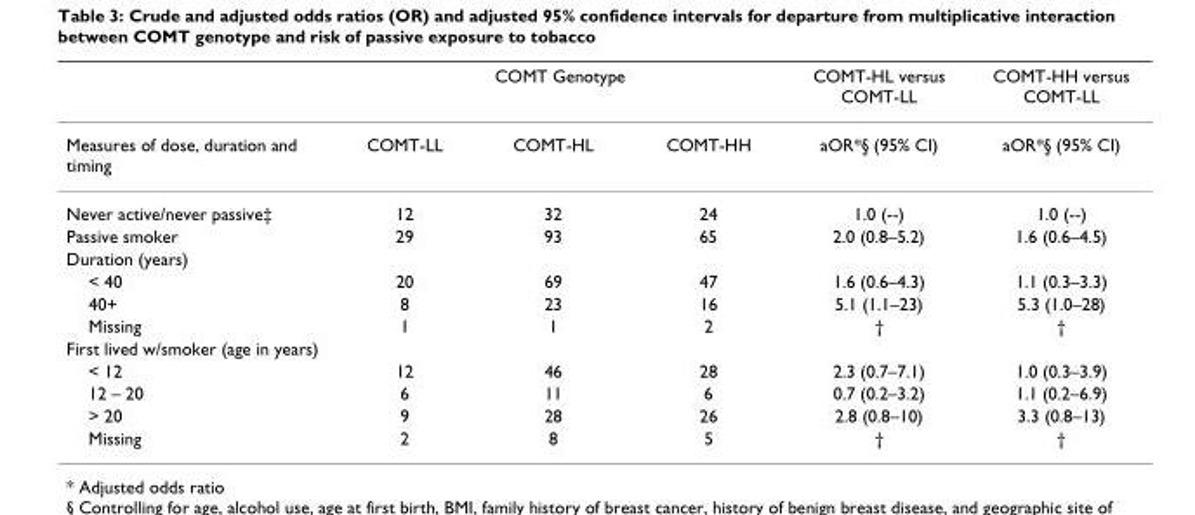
<table><thead><tr><td rowspan="2">Measures of dose, duration and timing</td><td colspan="3">COMT Genotype</td><td rowspan="2">COMT-HL versus COMT-LL aOR*§ (95% CI)</td><td rowspan="2">COMT-HH versus COMT-LL aOR*§ (95% CI)</td></tr><tr><td>COMT-LL</td><td>COMT-HL</td><td>COMT-HH</td></tr></thead><tbody><tr><td>Never active/never passive‡</td><td>12</td><td>32</td><td>24</td><td>1.0 (--)</td><td>1.0 (--)</td></tr><tr><td>Passive smoker</td><td>29</td><td>93</td><td>65</td><td>2.0 (0.8–5.2)</td><td>1.6 (0.6–4.5)</td></tr><tr><td colspan="6">Duration (years)</td></tr><tr><td>&lt; 40</td><td>20</td><td>69</td><td>47</td><td>1.6 (0.6–4.3)</td><td>1.1 (0.3–3.3)</td></tr><tr><td>40+</td><td>8</td><td>23</td><td>16</td><td>5.1 (1.1–23)</td><td>5.3 (1.0–28)</td></tr><tr><td>Missing</td><td>1</td><td>1</td><td>2</td><td>†</td><td>†</td></tr><tr><td colspan="6">First lived w/smoker (age in years)</td></tr><tr><td>&lt; 12</td><td>12</td><td>46</td><td>28</td><td>2.3 (0.7–7.1)</td><td>1.0 (0.3–3.9)</td></tr><tr><td>12 – 20</td><td>6</td><td>11</td><td>6</td><td>0.7 (0.2–3.2)</td><td>1.1 (0.2–6.9)</td></tr><tr><td>&gt; 20</td><td>9</td><td>28</td><td>26</td><td>2.8 (0.8–10)</td><td>3.3 (0.8–13)</td></tr><tr><td>Missing</td><td>2</td><td>8</td><td>5</td><td>†</td><td>†</td></tr></tbody></table>